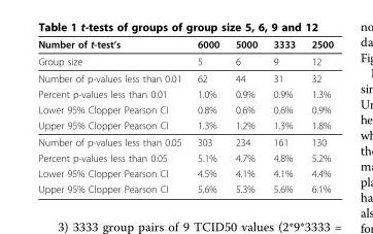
<table><thead><tr><td>Number of t-test’s</td><td>6000</td><td>5000</td><td>3333</td><td>2500</td></tr></thead><tbody><tr><td>Group size</td><td>5</td><td>6</td><td>9</td><td>12</td></tr><tr><td>Number of p-values less than 0.01</td><td>62</td><td>44</td><td>31</td><td>32</td></tr><tr><td>Percent p-values less than 0.01</td><td>1.0%</td><td>0.9%</td><td>0.9%</td><td>1.3%</td></tr><tr><td>Lower 95% Clopper Pearson CI</td><td>0.8%</td><td>0.6%</td><td>0.6%</td><td>0.9%</td></tr><tr><td>Upper 95% Clopper Pearson CI</td><td>1.3%</td><td>1.2%</td><td>1.3%</td><td>1.8%</td></tr><tr><td>Number of p-values less than 0.05</td><td>303</td><td>234</td><td>161</td><td>130</td></tr><tr><td>Percent p-values less than 0.05</td><td>5.1%</td><td>4.7%</td><td>4.8%</td><td>5.2%</td></tr><tr><td>Lower 95% Clopper Pearson CI</td><td>4.5%</td><td>4.1%</td><td>4.1%</td><td>4.4%</td></tr><tr><td>Upper 95% Clopper Pearson CI</td><td>5.6%</td><td>5.3%</td><td>5.6%</td><td>6.1%</td></tr></tbody></table>